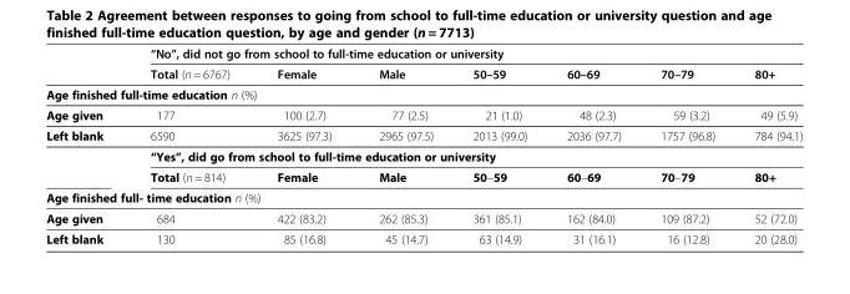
<table><thead><tr><td rowspan="2"></td><td colspan="7">“No”, did not go from school to full-time education or university</td></tr><tr><td>Total (n = 6767)</td><td>Female</td><td>Male</td><td>50–59</td><td>60–69</td><td>70–79</td><td>80+</td></tr></thead><tbody><tr><td colspan="8">Age finished full-time education n (%)</td></tr><tr><td>Age given</td><td>177</td><td>100 (2.7)</td><td>77 (2.5)</td><td>21 (1.0)</td><td>48 (2.3)</td><td>59 (3.2)</td><td>49 (5.9)</td></tr><tr><td rowspan="3">Left blank</td><td>6590</td><td>3625 (97.3)</td><td>2965 (97.5)</td><td>2013 (99.0)</td><td>2036 (97.7)</td><td>1757 (96.8)</td><td>784 (94.1)</td></tr><tr><td colspan="7">“Yes”, did go from school to full-time education or university</td></tr><tr><td>Total (n = 814)</td><td>Female</td><td>Male</td><td>50–59</td><td>60–69</td><td>70–79</td><td>80+</td></tr><tr><td colspan="8">Age finished full- time education n (%)</td></tr><tr><td>Age given</td><td>684</td><td>422 (83.2)</td><td>262 (85.3)</td><td>361 (85.1)</td><td>162 (84.0)</td><td>109 (87.2)</td><td>52 (72.0)</td></tr><tr><td>Left blank</td><td>130</td><td>85 (16.8)</td><td>45 (14.7)</td><td>63 (14.9)</td><td>31 (16.1)</td><td>16 (12.8)</td><td>20 (28.0)</td></tr></tbody></table>